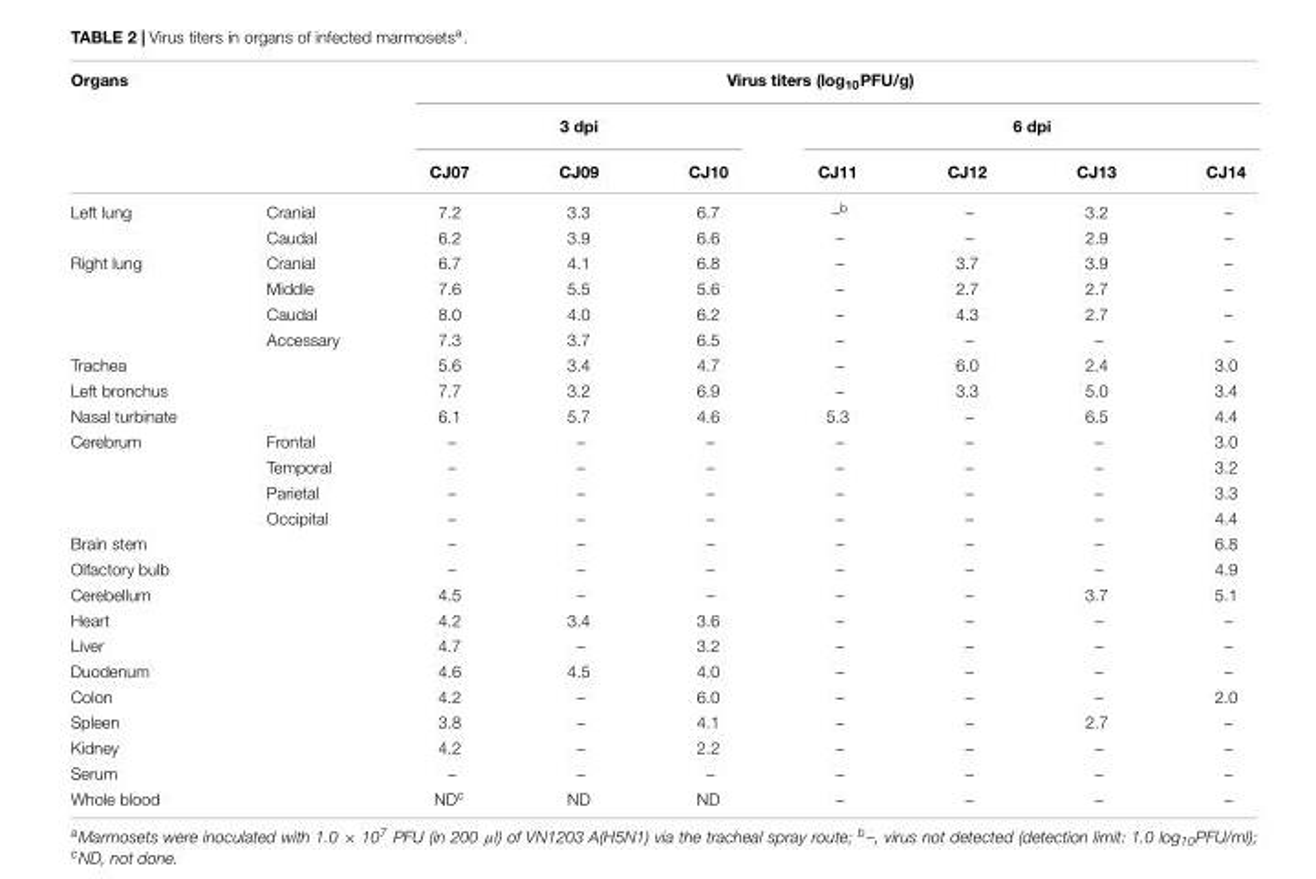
<table><thead><tr><td rowspan="3">Organs</td><td rowspan="3"></td><td colspan="7">Virus titers (log10PFU/g)</td></tr><tr><td colspan="3">3 dpi</td><td colspan="4">6 dpi</td></tr><tr><td>CJ07</td><td>CJ09</td><td>CJ10</td><td>CJ11</td><td>CJ12</td><td>CJ13</td><td>CJ14</td></tr></thead><tbody><tr><td rowspan="2">Left lung</td><td>Cranial</td><td>7.2</td><td>3.3</td><td>6.7</td><td>–b</td><td>–</td><td>3.2</td><td>–</td></tr><tr><td>Caudal</td><td>6.2</td><td>3.9</td><td>6.6</td><td>–</td><td>–</td><td>2.9</td><td>–</td></tr><tr><td rowspan="4">Right lung</td><td>Cranial</td><td>6.7</td><td>4.1</td><td>6.8</td><td>–</td><td>3.7</td><td>3.9</td><td>–</td></tr><tr><td>Middle</td><td>7.6</td><td>5.5</td><td>5.6</td><td>–</td><td>2.7</td><td>2.7</td><td>–</td></tr><tr><td>Caudal</td><td>8.0</td><td>4.0</td><td>6.2</td><td>–</td><td>4.3</td><td>2.7</td><td>–</td></tr><tr><td>Accessary</td><td>7.3</td><td>3.7</td><td>6.5</td><td>–</td><td>–</td><td>–</td><td>–</td></tr><tr><td>Trachea</td><td></td><td>5.6</td><td>3.4</td><td>4.7</td><td>–</td><td>6.0</td><td>2.4</td><td>3.0</td></tr><tr><td>Left bronchus</td><td></td><td>7.7</td><td>3.2</td><td>6.9</td><td>–</td><td>3.3</td><td>5.0</td><td>3.4</td></tr><tr><td>Nasal turbinate</td><td></td><td>6.1</td><td>5.7</td><td>4.6</td><td>5.3</td><td>–</td><td>6.5</td><td>4.4</td></tr><tr><td rowspan="4">Cerebrum</td><td>Frontal</td><td>–</td><td>–</td><td>–</td><td>–</td><td>–</td><td>–</td><td>3.0</td></tr><tr><td>Temporal</td><td>–</td><td>–</td><td>–</td><td>–</td><td>–</td><td>–</td><td>3.2</td></tr><tr><td>Parietal</td><td>–</td><td>–</td><td>–</td><td>–</td><td>–</td><td>–</td><td>3.3</td></tr><tr><td>Occipital</td><td>–</td><td>–</td><td>–</td><td>–</td><td>–</td><td>–</td><td>4.4</td></tr><tr><td>Brain stem</td><td></td><td>–</td><td>–</td><td>–</td><td>–</td><td>–</td><td>–</td><td>6.8</td></tr><tr><td>Olfactory bulb</td><td></td><td>–</td><td>–</td><td>–</td><td>–</td><td>–</td><td>–</td><td>4.9</td></tr><tr><td>Cerebellum</td><td></td><td>4.5</td><td>–</td><td>–</td><td>–</td><td>–</td><td>3.7</td><td>5.1</td></tr><tr><td>Heart</td><td></td><td>4.2</td><td>3.4</td><td>3.6</td><td>–</td><td>–</td><td>–</td><td>–</td></tr><tr><td>Liver</td><td></td><td>4.7</td><td>–</td><td>3.2</td><td>–</td><td>–</td><td>–</td><td>–</td></tr><tr><td>Duodenum</td><td></td><td>4.6</td><td>4.5</td><td>4.0</td><td>–</td><td>–</td><td>–</td><td>–</td></tr><tr><td>Colon</td><td></td><td>4.2</td><td>–</td><td>6.0</td><td>–</td><td>–</td><td>–</td><td>2.0</td></tr><tr><td>Spleen</td><td></td><td>3.8</td><td>–</td><td>4.1</td><td>–</td><td>–</td><td>2.7</td><td>–</td></tr><tr><td>Kidney</td><td></td><td>4.2</td><td>–</td><td>2.2</td><td>–</td><td>–</td><td>–</td><td>–</td></tr><tr><td>Serum</td><td></td><td>–</td><td>–</td><td>–</td><td>–</td><td>–</td><td>–</td><td>–</td></tr><tr><td>Whole blood</td><td></td><td>NDc</td><td>ND</td><td>ND</td><td>–</td><td>–</td><td>–</td><td>–</td></tr></tbody></table>